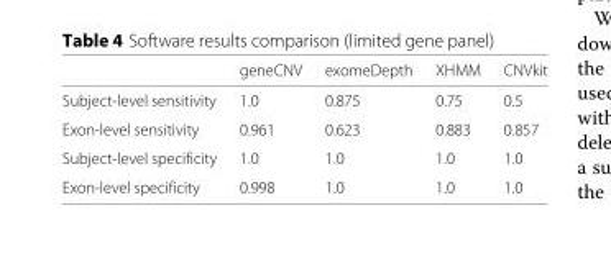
<table><thead><tr><td></td><td>geneCNV</td><td>exomeDepth</td><td>XHMM</td><td>CNVkit</td></tr></thead><tbody><tr><td>Subject-level sensitivity</td><td>1.0</td><td>0.875</td><td>0.75</td><td>0.5</td></tr><tr><td>Exon-level sensitivity</td><td>0.961</td><td>0.623</td><td>0.883</td><td>0.857</td></tr><tr><td>Subject-level specificity</td><td>1.0</td><td>1.0</td><td>1.0</td><td>1.0</td></tr><tr><td>Exon-level specificity</td><td>0.998</td><td>1.0</td><td>1.0</td><td>1.0</td></tr></tbody></table>